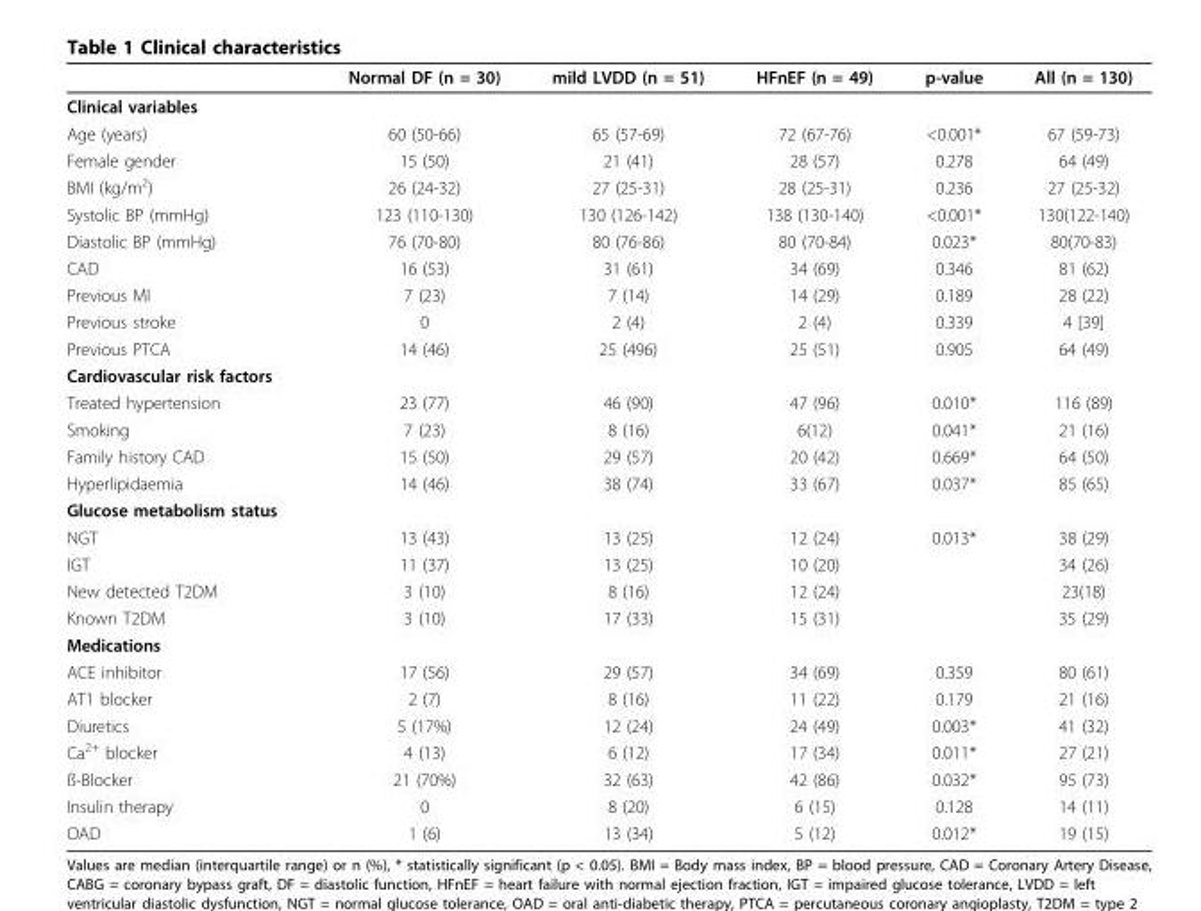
<table><thead><tr><td></td><td>Normal DF (n = 30)</td><td>mild LVDD (n = 51)</td><td>HFnEF (n = 49)</td><td>p-value</td><td>All (n = 130)</td></tr></thead><tbody><tr><td colspan="6">Clinical variables</td></tr><tr><td>Age (years)</td><td>60 (50-66)</td><td>65 (57-69)</td><td>72 (67-76)</td><td>&lt;0.001*</td><td>67 (59-73)</td></tr><tr><td>Female gender</td><td>15 (50)</td><td>21 (41)</td><td>28 (57)</td><td>0.278</td><td>64 (49)</td></tr><tr><td>BMI (kg/m<sup>2</sup>)</td><td>26 (24-32)</td><td>27 (25-31)</td><td>28 (25-31)</td><td>0.236</td><td>27 (25-32)</td></tr><tr><td>Systolic BP (mmHg)</td><td>123 (110-130)</td><td>130 (126-142)</td><td>138 (130-140)</td><td>&lt;0.001*</td><td>130(122-140)</td></tr><tr><td>Diastolic BP (mmHg)</td><td>76 (70-80)</td><td>80 (76-86)</td><td>80 (70-84)</td><td>0.023*</td><td>80(70-83)</td></tr><tr><td>CAD</td><td>16 (53)</td><td>31 (61)</td><td>34 (69)</td><td>0.346</td><td>81 (62)</td></tr><tr><td>Previous MI</td><td>7 (23)</td><td>7 (14)</td><td>14 (29)</td><td>0.189</td><td>28 (22)</td></tr><tr><td>Previous stroke</td><td>0</td><td>2 (4)</td><td>2 (4)</td><td>0.339</td><td>4 [39]</td></tr><tr><td>Previous PTCA</td><td>14 (46)</td><td>25 (496)</td><td>25 (51)</td><td>0.905</td><td>64 (49)</td></tr><tr><td colspan="6">Cardiovascular risk factors</td></tr><tr><td>Treated hypertension</td><td>23 (77)</td><td>46 (90)</td><td>47 (96)</td><td>0.010*</td><td>116 (89)</td></tr><tr><td>Smoking</td><td>7 (23)</td><td>8 (16)</td><td>6(12)</td><td>0.041*</td><td>21 (16)</td></tr><tr><td>Family history CAD</td><td>15 (50)</td><td>29 (57)</td><td>20 (42)</td><td>0.669*</td><td>64 (50)</td></tr><tr><td>Hyperlipidaemia</td><td>14 (46)</td><td>38 (74)</td><td>33 (67)</td><td>0.037*</td><td>85 (65)</td></tr><tr><td colspan="6">Glucose metabolism status</td></tr><tr><td>NGT</td><td>13 (43)</td><td>13 (25)</td><td>12 (24)</td><td>0.013*</td><td>38 (29)</td></tr><tr><td>IGT</td><td>11 (37)</td><td>13 (25)</td><td>10 (20)</td><td></td><td>34 (26)</td></tr><tr><td>New detected T2DM</td><td>3 (10)</td><td>8 (16)</td><td>12 (24)</td><td></td><td>23(18)</td></tr><tr><td>Known T2DM</td><td>3 (10)</td><td>17 (33)</td><td>15 (31)</td><td></td><td>35 (29)</td></tr><tr><td colspan="6">Medications</td></tr><tr><td>ACE inhibitor</td><td>17 (56)</td><td>29 (57)</td><td>34 (69)</td><td>0.359</td><td>80 (61)</td></tr><tr><td>AT1 blocker</td><td>2 (7)</td><td>8 (16)</td><td>11 (22)</td><td>0.179</td><td>21 (16)</td></tr><tr><td>Diuretics</td><td>5 (17%)</td><td>12 (24)</td><td>24 (49)</td><td>0.003*</td><td>41 (32)</td></tr><tr><td>Ca<sup>2+</sup> blocker</td><td>4 (13)</td><td>6 (12)</td><td>17 (34)</td><td>0.011*</td><td>27 (21)</td></tr><tr><td>ß-Blocker</td><td>21 (70%)</td><td>32 (63)</td><td>42 (86)</td><td>0.032*</td><td>95 (73)</td></tr><tr><td>Insulin therapy</td><td>0</td><td>8 (20)</td><td>6 (15)</td><td>0.128</td><td>14 (11)</td></tr><tr><td>OAD</td><td>1 (6)</td><td>13 (34)</td><td>5 (12)</td><td>0.012*</td><td>19 (15)</td></tr></tbody></table>